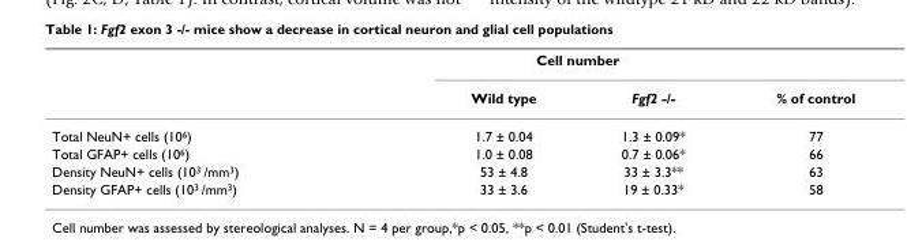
<table><thead><tr><td rowspan="2"></td><td colspan="2">Cell number</td><td rowspan="2">% of control</td></tr><tr><td>Wild type</td><td>Fgf2 -/-</td></tr></thead><tbody><tr><td>Total NeuN+ cells (10<sup>6</sup>)</td><td>1.7 ± 0.04</td><td>1.3 ± 0.09*</td><td>77</td></tr><tr><td>Total GFAP+ cells (10<sup>6</sup>)</td><td>1.0 ± 0.08</td><td>0.7 ± 0.06*</td><td>66</td></tr><tr><td>Density NeuN+ cells (10<sup>3</sup> /mm<sup>3</sup>)</td><td>53 ± 4.8</td><td>33 ± 3.3**</td><td>63</td></tr><tr><td>Density GFAP+ cells (10<sup>3</sup> /mm<sup>3</sup>)</td><td>33 ± 3.6</td><td>19 ± 0.33*</td><td>58</td></tr></tbody></table>